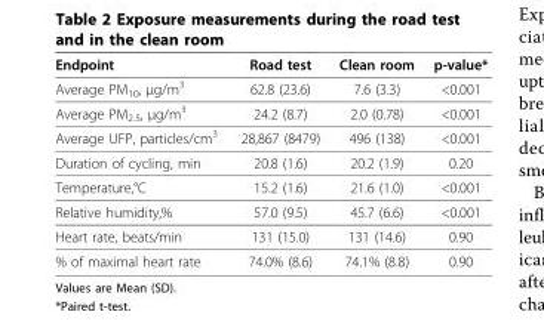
<table><thead><tr><td>Endpoint</td><td>Road test</td><td>Clean room</td><td>p-value*</td></tr></thead><tbody><tr><td>Average PM<sub>10</sub>, μg/m<sup>3</sup></td><td>62.8 (23.6)</td><td>7.6 (3.3)</td><td>&lt;0.001</td></tr><tr><td>Average PM<sub>2.5</sub>, μg/m<sup>3</sup></td><td>24.2 (8.7)</td><td>2.0 (0.78)</td><td>&lt;0.001</td></tr><tr><td>Average UFP, particles/cm<sup>3</sup></td><td>28,867 (8479)</td><td>496 (138)</td><td>&lt;0.001</td></tr><tr><td>Duration of cycling, min</td><td>20.8 (1.6)</td><td>20.2 (1.9)</td><td>0.20</td></tr><tr><td>Temperature,°C</td><td>15.2 (1.6)</td><td>21.6 (1.0)</td><td>&lt;0.001</td></tr><tr><td>Relative humidity,%</td><td>57.0 (9.5)</td><td>45.7 (6.6)</td><td>&lt;0.001</td></tr><tr><td>Heart rate, beats/min</td><td>131 (15.0)</td><td>131 (14.6)</td><td>0.90</td></tr><tr><td>% of maximal heart rate</td><td>74.0% (8.6)</td><td>74.1% (8.8)</td><td>0.90</td></tr></tbody></table>